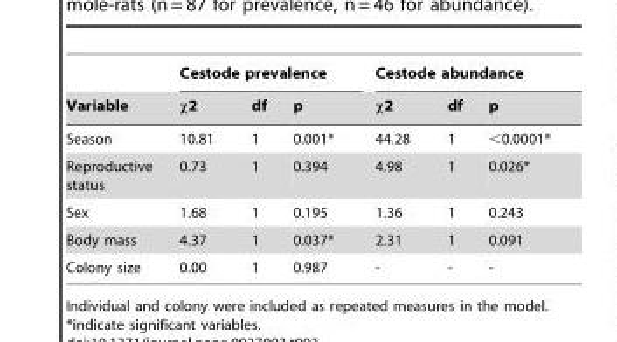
<table><thead><tr><td rowspan="2">Variable</td><td colspan="3">Cestode prevalence</td><td colspan="3">Cestode abundance</td></tr><tr><td>χ2</td><td>df</td><td>p</td><td>χ2</td><td>df</td><td>p</td></tr></thead><tbody><tr><td>Season</td><td>10.81</td><td>1</td><td>0.001*</td><td>44.28</td><td>1</td><td>&lt;0.0001*</td></tr><tr><td>Reproductive status</td><td>0.73</td><td>1</td><td>0.394</td><td>4.98</td><td>1</td><td>0.026*</td></tr><tr><td>Sex</td><td>1.68</td><td>1</td><td>0.195</td><td>1.36</td><td>1</td><td>0.243</td></tr><tr><td>Body mass</td><td>4.37</td><td>1</td><td>0.037*</td><td>2.31</td><td>1</td><td>0.091</td></tr><tr><td>Colony size</td><td>0.00</td><td>1</td><td>0.987</td><td>-</td><td>-</td><td>-</td></tr></tbody></table>